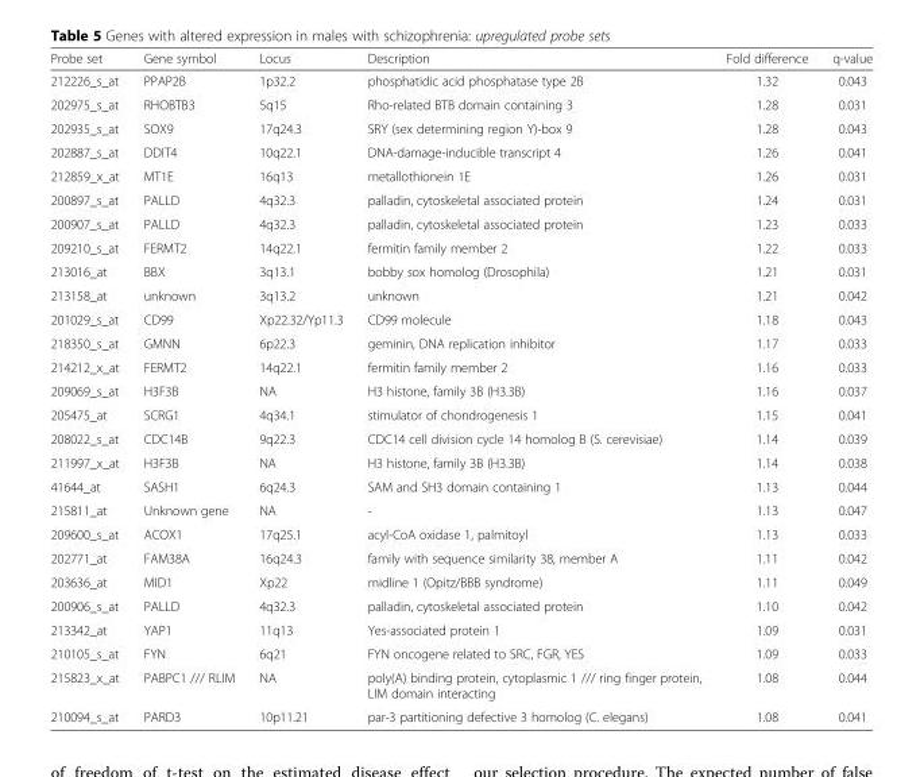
<table><thead><tr><td>Probe set</td><td>Gene symbol</td><td>Locus</td><td>Description</td><td>Fold difference</td><td>q-value</td></tr></thead><tbody><tr><td>212226_s_at</td><td>PPAP2B</td><td>1p32.2</td><td>phosphatidic acid phosphatase type 2B</td><td>1.32</td><td>0.043</td></tr><tr><td>202975_s_at</td><td>RHOBTB3</td><td>5q15</td><td>Rho-related BTB domain containing 3</td><td>1.28</td><td>0.031</td></tr><tr><td>202935_s_at</td><td>SOX9</td><td>17q24.3</td><td>SRY (sex determining region Y)-box 9</td><td>1.28</td><td>0.043</td></tr><tr><td>202887_s_at</td><td>DDIT4</td><td>10q22.1</td><td>DNA-damage-inducible transcript 4</td><td>1.26</td><td>0.041</td></tr><tr><td>212859_x_at</td><td>MT1E</td><td>16q13</td><td>metallothionein 1E</td><td>1.26</td><td>0.031</td></tr><tr><td>200897_s_at</td><td>PALLD</td><td>4q32.3</td><td>palladin, cytoskeletal associated protein</td><td>1.24</td><td>0.031</td></tr><tr><td>200907_s_at</td><td>PALLD</td><td>4q32.3</td><td>palladin, cytoskeletal associated protein</td><td>1.23</td><td>0.033</td></tr><tr><td>209210_s_at</td><td>FERMT2</td><td>14q22.1</td><td>fermitin family member 2</td><td>1.22</td><td>0.033</td></tr><tr><td>213016_at</td><td>BBX</td><td>3q13.1</td><td>bobby sox homolog (Drosophila)</td><td>1.21</td><td>0.031</td></tr><tr><td>213158_at</td><td>unknown</td><td>3q13.2</td><td>unknown</td><td>1.21</td><td>0.042</td></tr><tr><td>201029_s_at</td><td>CD99</td><td>Xp22.32/Yp11.3</td><td>CD99 molecule</td><td>1.18</td><td>0.043</td></tr><tr><td>218350_s_at</td><td>GMNN</td><td>6p22.3</td><td>geminin, DNA replication inhibitor</td><td>1.17</td><td>0.033</td></tr><tr><td>214212_x_at</td><td>FERMT2</td><td>14q22.1</td><td>fermitin family member 2</td><td>1.16</td><td>0.033</td></tr><tr><td>209069_s_at</td><td>H3F3B</td><td>NA</td><td>H3 histone, family 3B (H3.3B)</td><td>1.16</td><td>0.037</td></tr><tr><td>205475_at</td><td>SCRG1</td><td>4q34.1</td><td>stimulator of chondrogenesis 1</td><td>1.15</td><td>0.041</td></tr><tr><td>208022_s_at</td><td>CDC14B</td><td>9q22.3</td><td>CDC14 cell division cycle 14 homolog B (S. cerevisiae)</td><td>1.14</td><td>0.039</td></tr><tr><td>211997_x_at</td><td>H3F3B</td><td>NA</td><td>H3 histone, family 3B (H3.3B)</td><td>1.14</td><td>0.038</td></tr><tr><td>41644_at</td><td>SASH1</td><td>6q24.3</td><td>SAM and SH3 domain containing 1</td><td>1.13</td><td>0.044</td></tr><tr><td>215811_at</td><td>Unknown gene</td><td>NA</td><td>-</td><td>1.13</td><td>0.047</td></tr><tr><td>209600_s_at</td><td>ACOX1</td><td>17q25.1</td><td>acyl-CoA oxidase 1, palmitoyl</td><td>1.13</td><td>0.033</td></tr><tr><td>202771_at</td><td>FAM38A</td><td>16q24.3</td><td>family with sequence similarity 38, member A</td><td>1.11</td><td>0.042</td></tr><tr><td>203636_at</td><td>MID1</td><td>Xp22</td><td>midline 1 (Opitz/BBB syndrome)</td><td>1.11</td><td>0.049</td></tr><tr><td>200906_s_at</td><td>PALLD</td><td>4q32.3</td><td>palladin, cytoskeletal associated protein</td><td>1.10</td><td>0.042</td></tr><tr><td>213342_at</td><td>YAP1</td><td>11q13</td><td>Yes-associated protein 1</td><td>1.09</td><td>0.031</td></tr><tr><td>210105_s_at</td><td>FYN</td><td>6q21</td><td>FYN oncogene related to SRC, FGR, YES</td><td>1.09</td><td>0.033</td></tr><tr><td>215823_x_at</td><td>PABPC1 /// RLIM</td><td>NA</td><td>poly(A) binding protein, cytoplasmic 1 /// ring finger protein, LIM domain interacting</td><td>1.08</td><td>0.044</td></tr><tr><td>210094_s_at</td><td>PARD3</td><td>10p11.21</td><td>par-3 partitioning defective 3 homolog (C. elegans)</td><td>1.08</td><td>0.041</td></tr></tbody></table>